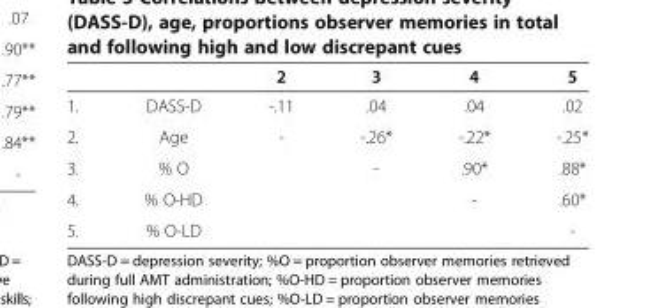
<table><thead><tr><td></td><td></td><td>2</td><td>3</td><td>4</td><td>5</td></tr></thead><tbody><tr><td>1.</td><td>DASS-D</td><td>-.11</td><td>.04</td><td>.04</td><td>.02</td></tr><tr><td>2.</td><td>Age</td><td>-</td><td>-.26*</td><td>-.22*</td><td>-.25*</td></tr><tr><td>3.</td><td>% O</td><td></td><td>-</td><td>.90*</td><td>.88*</td></tr><tr><td>4.</td><td>% O-HD</td><td></td><td></td><td>-</td><td>.60*</td></tr><tr><td>5.</td><td>% O-LD</td><td></td><td></td><td></td><td>-</td></tr></tbody></table>